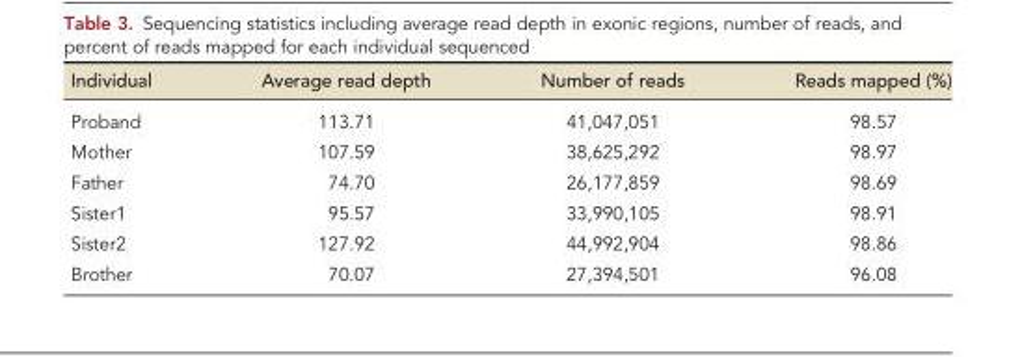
<table><thead><tr><td>Individual</td><td>Average read depth</td><td>Number of reads</td><td>Reads mapped (%)</td></tr></thead><tbody><tr><td>Proband</td><td>113.71</td><td>41,047,051</td><td>98.57</td></tr><tr><td>Mother</td><td>107.59</td><td>38,625,292</td><td>98.97</td></tr><tr><td>Father</td><td>74.70</td><td>26,177,859</td><td>98.69</td></tr><tr><td>Sister1</td><td>95.57</td><td>33,990,105</td><td>98.91</td></tr><tr><td>Sister2</td><td>127.92</td><td>44,992,904</td><td>98.86</td></tr><tr><td>Brother</td><td>70.07</td><td>27,394,501</td><td>96.08</td></tr></tbody></table>